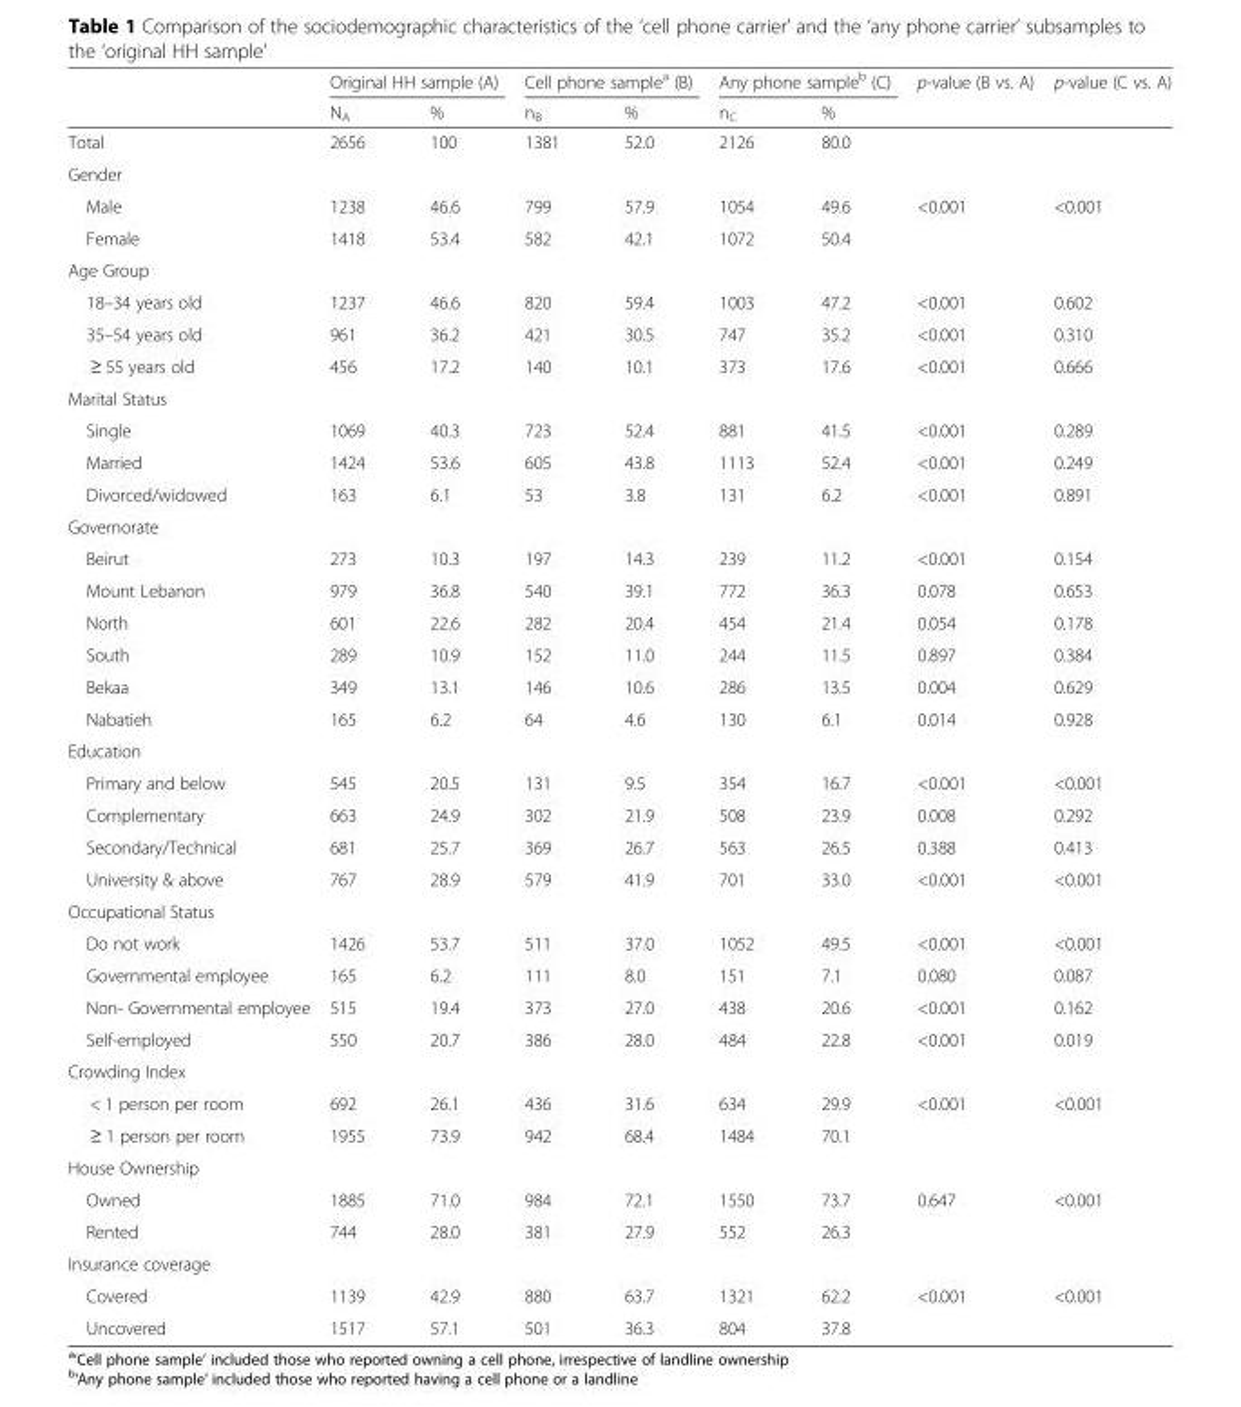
<table><thead><tr><td rowspan="2"></td><td colspan="2">Original HH sample (A)</td><td colspan="2">Cell phone sample<sup>a</sup> (B)</td><td colspan="2">Any phone sample<sup>b</sup> (C)</td><td rowspan="2">p-value (B vs. A)</td><td rowspan="2">p-value (C vs. A)</td></tr><tr><td>N<sub>A</sub></td><td>%</td><td>n<sub>B</sub></td><td>%</td><td>n<sub>C</sub></td><td>%</td></tr></thead><tbody><tr><td>Total</td><td>2656</td><td>100</td><td>1381</td><td>52.0</td><td>2126</td><td>80.0</td><td></td><td></td></tr><tr><td colspan="9">Gender</td></tr><tr><td>Male</td><td>1238</td><td>46.6</td><td>799</td><td>57.9</td><td>1054</td><td>49.6</td><td>&lt;0.001</td><td>&lt;0.001</td></tr><tr><td>Female</td><td>1418</td><td>53.4</td><td>582</td><td>42.1</td><td>1072</td><td>50.4</td><td></td><td></td></tr><tr><td colspan="9">Age Group</td></tr><tr><td>18–34 years old</td><td>1237</td><td>46.6</td><td>820</td><td>59.4</td><td>1003</td><td>47.2</td><td>&lt;0.001</td><td>0.602</td></tr><tr><td>35–54 years old</td><td>961</td><td>36.2</td><td>421</td><td>30.5</td><td>747</td><td>35.2</td><td>&lt;0.001</td><td>0.310</td></tr><tr><td>≥ 55 years old</td><td>456</td><td>17.2</td><td>140</td><td>10.1</td><td>373</td><td>17.6</td><td>&lt;0.001</td><td>0.666</td></tr><tr><td colspan="9">Marital Status</td></tr><tr><td>Single</td><td>1069</td><td>40.3</td><td>723</td><td>52.4</td><td>881</td><td>41.5</td><td>&lt;0.001</td><td>0.289</td></tr><tr><td>Married</td><td>1424</td><td>53.6</td><td>605</td><td>43.8</td><td>1113</td><td>52.4</td><td>&lt;0.001</td><td>0.249</td></tr><tr><td>Divorced/widowed</td><td>163</td><td>6.1</td><td>53</td><td>3.8</td><td>131</td><td>6.2</td><td>&lt;0.001</td><td>0.891</td></tr><tr><td colspan="9">Governorate</td></tr><tr><td>Beirut</td><td>273</td><td>10.3</td><td>197</td><td>14.3</td><td>239</td><td>11.2</td><td>&lt;0.001</td><td>0.154</td></tr><tr><td>Mount Lebanon</td><td>979</td><td>36.8</td><td>540</td><td>39.1</td><td>772</td><td>36.3</td><td>0.078</td><td>0.653</td></tr><tr><td>North</td><td>601</td><td>22.6</td><td>282</td><td>20.4</td><td>454</td><td>21.4</td><td>0.054</td><td>0.178</td></tr><tr><td>South</td><td>289</td><td>10.9</td><td>152</td><td>11.0</td><td>244</td><td>11.5</td><td>0.897</td><td>0.384</td></tr><tr><td>Bekaa</td><td>349</td><td>13.1</td><td>146</td><td>10.6</td><td>286</td><td>13.5</td><td>0.004</td><td>0.629</td></tr><tr><td>Nabatieh</td><td>165</td><td>6.2</td><td>64</td><td>4.6</td><td>130</td><td>6.1</td><td>0.014</td><td>0.928</td></tr><tr><td colspan="9">Education</td></tr><tr><td>Primary and below</td><td>545</td><td>20.5</td><td>131</td><td>9.5</td><td>354</td><td>16.7</td><td>&lt;0.001</td><td>&lt;0.001</td></tr><tr><td>Complementary</td><td>663</td><td>24.9</td><td>302</td><td>21.9</td><td>508</td><td>23.9</td><td>0.008</td><td>0.292</td></tr><tr><td>Secondary/Technical</td><td>681</td><td>25.7</td><td>369</td><td>26.7</td><td>563</td><td>26.5</td><td>0.388</td><td>0.413</td></tr><tr><td>University &amp; above</td><td>767</td><td>28.9</td><td>579</td><td>41.9</td><td>701</td><td>33.0</td><td>&lt;0.001</td><td>&lt;0.001</td></tr><tr><td colspan="9">Occupational Status</td></tr><tr><td>Do not work</td><td>1426</td><td>53.7</td><td>511</td><td>37.0</td><td>1052</td><td>49.5</td><td>&lt;0.001</td><td>&lt;0.001</td></tr><tr><td>Governmental employee</td><td>165</td><td>6.2</td><td>111</td><td>8.0</td><td>151</td><td>7.1</td><td>0.080</td><td>0.087</td></tr><tr><td>Non- Governmental employee</td><td>515</td><td>19.4</td><td>373</td><td>27.0</td><td>438</td><td>20.6</td><td>&lt;0.001</td><td>0.162</td></tr><tr><td>Self-employed</td><td>550</td><td>20.7</td><td>386</td><td>28.0</td><td>484</td><td>22.8</td><td>&lt;0.001</td><td>0.019</td></tr><tr><td colspan="9">Crowding Index</td></tr><tr><td>&lt; 1 person per room</td><td>692</td><td>26.1</td><td>436</td><td>31.6</td><td>634</td><td>29.9</td><td>&lt;0.001</td><td>&lt;0.001</td></tr><tr><td>≥ 1 person per room</td><td>1955</td><td>73.9</td><td>942</td><td>68.4</td><td>1484</td><td>70.1</td><td></td><td></td></tr><tr><td colspan="9">House Ownership</td></tr><tr><td>Owned</td><td>1885</td><td>71.0</td><td>984</td><td>72.1</td><td>1550</td><td>73.7</td><td>0.647</td><td>&lt;0.001</td></tr><tr><td>Rented</td><td>744</td><td>28.0</td><td>381</td><td>27.9</td><td>552</td><td>26.3</td><td></td><td></td></tr><tr><td colspan="9">Insurance coverage</td></tr><tr><td>Covered</td><td>1139</td><td>42.9</td><td>880</td><td>63.7</td><td>1321</td><td>62.2</td><td>&lt;0.001</td><td>&lt;0.001</td></tr><tr><td>Uncovered</td><td>1517</td><td>57.1</td><td>501</td><td>36.3</td><td>804</td><td>37.8</td><td></td><td></td></tr></tbody></table>